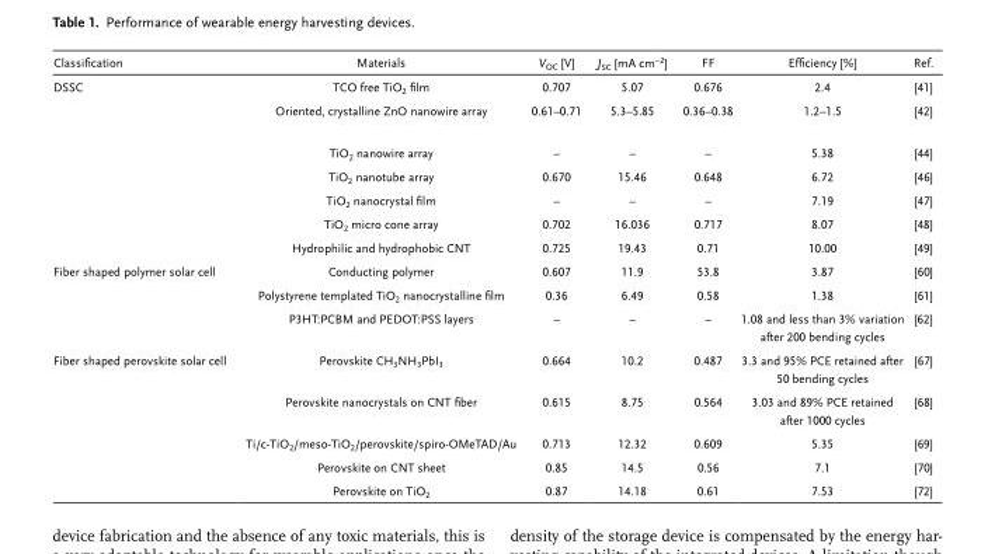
<table><thead><tr><td>Classification</td><td>Materials</td><td>V<sub>OC</sub> [V]</td><td>J<sub>SC</sub> [mA cm<sup>−2</sup>]</td><td>FF</td><td>Efficiency [%]</td><td>Ref.</td></tr></thead><tbody><tr><td rowspan="7">DSSC</td><td>TCO free TiO<sub>2</sub> film</td><td>0.707</td><td>5.07</td><td>0.676</td><td>2.4</td><td>[41]</td></tr><tr><td>Oriented, crystalline ZnO nanowire array</td><td>0.61–0.71</td><td>5.3–5.85</td><td>0.36–0.38</td><td>1.2–1.5</td><td>[42]</td></tr><tr><td>TiO<sub>2</sub> nanowire array</td><td>–</td><td>–</td><td>–</td><td>5.38</td><td>[44]</td></tr><tr><td>TiO<sub>2</sub> nanotube array</td><td>0.670</td><td>15.46</td><td>0.648</td><td>6.72</td><td>[46]</td></tr><tr><td>TiO<sub>2</sub> nanocrystal film</td><td>–</td><td>–</td><td>–</td><td>7.19</td><td>[47]</td></tr><tr><td>TiO<sub>2</sub> micro cone array</td><td>0.702</td><td>16.036</td><td>0.717</td><td>8.07</td><td>[48]</td></tr><tr><td>Hydrophilic and hydrophobic CNT</td><td>0.725</td><td>19.43</td><td>0.71</td><td>10.00</td><td>[49]</td></tr><tr><td rowspan="3">Fiber shaped polymer solar cell</td><td>Conducting polymer</td><td>0.607</td><td>11.9</td><td>53.8</td><td>3.87</td><td>[60]</td></tr><tr><td>Polystyrene templated TiO<sub>2</sub> nanocrystalline film</td><td>0.36</td><td>6.49</td><td>0.58</td><td>1.38</td><td>[61]</td></tr><tr><td>P3HT:PCBM and PEDOT:PSS layers</td><td>–</td><td>–</td><td>–</td><td>1.08 and less than 3% variation after 200 bending cycles</td><td>[62]</td></tr><tr><td rowspan="5">Fiber shaped perovskite solar cell</td><td>Perovskite CH<sub>3</sub>NH<sub>3</sub>PbI<sub>3</sub></td><td>0.664</td><td>10.2</td><td>0.487</td><td>3.3 and 95% PCE retained after 50 bending cycles</td><td>[67]</td></tr><tr><td>Perovskite nanocrystals on CNT fiber</td><td>0.615</td><td>8.75</td><td>0.564</td><td>3.03 and 89% PCE retained after 1000 cycles</td><td>[68]</td></tr><tr><td>Ti/c-TiO<sub>2</sub>/meso-TiO<sub>2</sub>/perovskite/spiro-OMeTAD/Au</td><td>0.713</td><td>12.32</td><td>0.609</td><td>5.35</td><td>[69]</td></tr><tr><td>Perovskite on CNT sheet</td><td>0.85</td><td>14.5</td><td>0.56</td><td>7.1</td><td>[70]</td></tr><tr><td>Perovskite on TiO<sub>2</sub></td><td>0.87</td><td>14.18</td><td>0.61</td><td>7.53</td><td>[72]</td></tr></tbody></table>